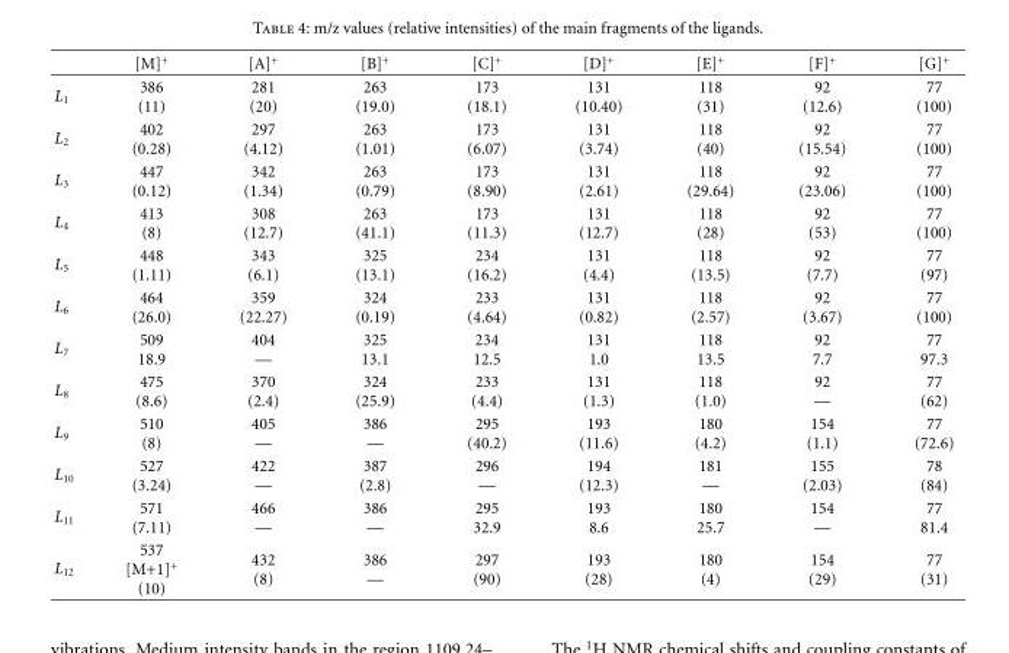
<table><thead><tr><td></td><td>[M]<sup>+</sup></td><td>[A]<sup>+</sup></td><td>[B]<sup>+</sup></td><td>[C]<sup>+</sup></td><td>[D]<sup>+</sup></td><td>[E]<sup>+</sup></td><td>[F]<sup>+</sup></td><td>[G]<sup>+</sup></td></tr></thead><tbody><tr><td>L<sub>1</sub></td><td>386 (11)</td><td>281 (20)</td><td>263 (19.0)</td><td>173 (18.1)</td><td>131 (10.40)</td><td>118 (31)</td><td>92 (12.6)</td><td>77 (100)</td></tr><tr><td>L<sub>2</sub></td><td>402 (0.28)</td><td>297 (4.12)</td><td>263 (1.01)</td><td>173 (6.07)</td><td>131 (3.74)</td><td>118 (40)</td><td>92 (15.54)</td><td>77 (100)</td></tr><tr><td>L<sub>3</sub></td><td>447 (0.12)</td><td>342 (1.34)</td><td>263 (0.79)</td><td>173 (8.90)</td><td>131 (2.61)</td><td>118 (29.64)</td><td>92 (23.06)</td><td>77 (100)</td></tr><tr><td>L<sub>4</sub></td><td>413 (8)</td><td>308 (12.7)</td><td>263 (41.1)</td><td>173 (11.3)</td><td>131 (12.7)</td><td>118 (28)</td><td>92 (53)</td><td>77 (100)</td></tr><tr><td>L<sub>5</sub></td><td>448 (1.11)</td><td>343 (6.1)</td><td>325 (13.1)</td><td>234 (16.2)</td><td>131 (4.4)</td><td>118 (13.5)</td><td>92 (7.7)</td><td>77 (97)</td></tr><tr><td>L<sub>6</sub></td><td>464 (26.0)</td><td>359 (22.27)</td><td>324 (0.19)</td><td>233 (4.64)</td><td>131 (0.82)</td><td>118 (2.57)</td><td>92 (3.67)</td><td>77 (100)</td></tr><tr><td>L<sub>7</sub></td><td>509 18.9</td><td>404 —</td><td>325 13.1</td><td>234 12.5</td><td>131 1.0</td><td>118 13.5</td><td>92 7.7</td><td>77 97.3</td></tr><tr><td>L<sub>8</sub></td><td>475 (8.6)</td><td>370 (2.4)</td><td>324 (25.9)</td><td>233 (4.4)</td><td>131 (1.3)</td><td>118 (1.0)</td><td>92 —</td><td>77 (62)</td></tr><tr><td>L<sub>9</sub></td><td>510 (8)</td><td>405 —</td><td>386 —</td><td>295 (40.2)</td><td>193 (11.6)</td><td>180 (4.2)</td><td>154 (1.1)</td><td>77 (72.6)</td></tr><tr><td>L<sub>10</sub></td><td>527 (3.24)</td><td>422 —</td><td>387 (2.8)</td><td>296 —</td><td>194 (12.3)</td><td>181 —</td><td>155 (2.03)</td><td>78 (84)</td></tr><tr><td>L<sub>11</sub></td><td>571 (7.11)</td><td>466 —</td><td>386 —</td><td>295 32.9</td><td>193 8.6</td><td>180 25.7</td><td>154 —</td><td>77 81.4</td></tr><tr><td>L<sub>12</sub></td><td>537 [M+1]<sup>+</sup> (10)</td><td>432 (8)</td><td>386 —</td><td>297 (90)</td><td>193 (28)</td><td>180 (4)</td><td>154 (29)</td><td>77 (31)</td></tr></tbody></table>